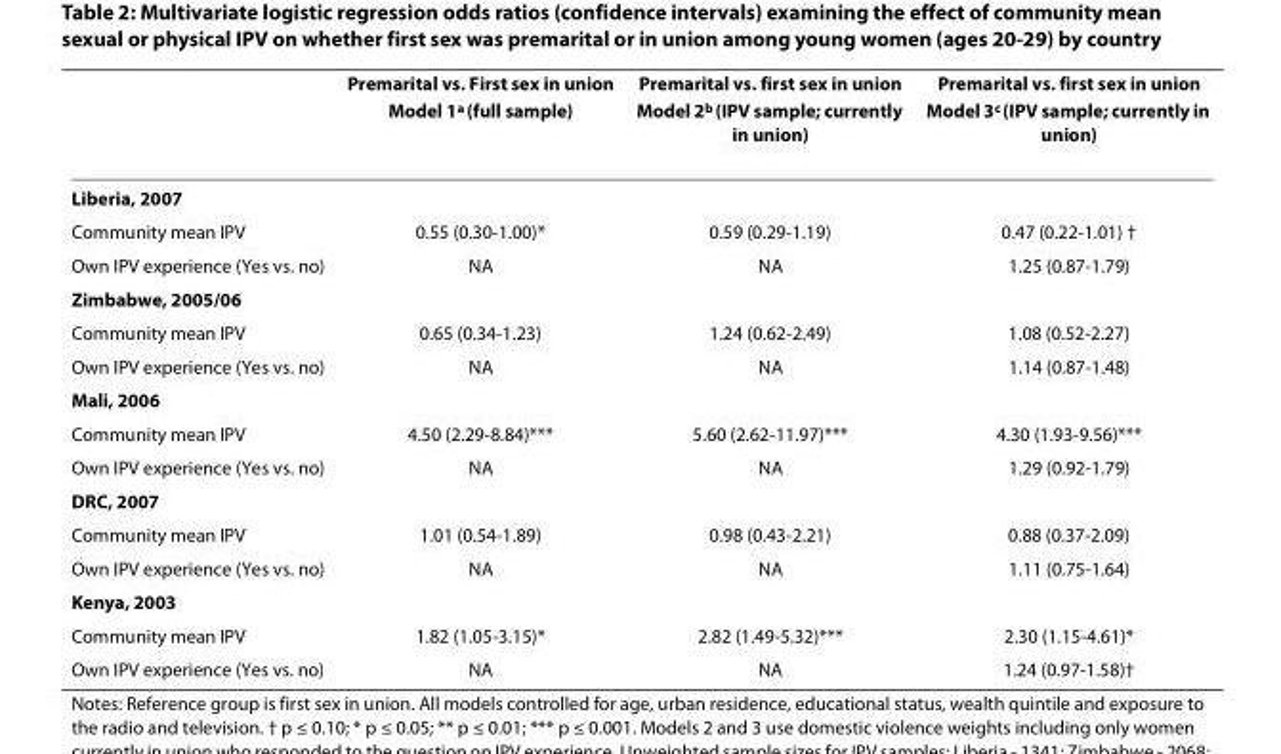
<table><thead><tr><td></td><td>Premarital vs. First sex in union Model 1<sup>a</sup> (full sample)</td><td>Premarital vs. first sex in union Model 2<sup>b</sup> (IPV sample; currently in union)</td><td>Premarital vs. first sex in union Model 3<sup>c</sup> (IPV sample; currently in union)</td></tr></thead><tbody><tr><td colspan="4">Liberia, 2007</td></tr><tr><td>Community mean IPV</td><td>0.55 (0.30-1.00)*</td><td>0.59 (0.29-1.19)</td><td>0.47 (0.22-1.01) †</td></tr><tr><td>Own IPV experience (Yes vs. no)</td><td>NA</td><td>NA</td><td>1.25 (0.87-1.79)</td></tr><tr><td colspan="4">Zimbabwe, 2005/06</td></tr><tr><td>Community mean IPV</td><td>0.65 (0.34-1.23)</td><td>1.24 (0.62-2.49)</td><td>1.08 (0.52-2.27)</td></tr><tr><td>Own IPV experience (Yes vs. no)</td><td>NA</td><td>NA</td><td>1.14 (0.87-1.48)</td></tr><tr><td colspan="4">Mali, 2006</td></tr><tr><td>Community mean IPV</td><td>4.50 (2.29-8.84)***</td><td>5.60 (2.62-11.97)***</td><td>4.30 (1.93-9.56)***</td></tr><tr><td>Own IPV experience (Yes vs. no)</td><td>NA</td><td>NA</td><td>1.29 (0.92-1.79)</td></tr><tr><td colspan="4">DRC, 2007</td></tr><tr><td>Community mean IPV</td><td>1.01 (0.54-1.89)</td><td>0.98 (0.43-2.21)</td><td>0.88 (0.37-2.09)</td></tr><tr><td>Own IPV experience (Yes vs. no)</td><td>NA</td><td>NA</td><td>1.11 (0.75-1.64)</td></tr><tr><td colspan="4">Kenya, 2003</td></tr><tr><td>Community mean IPV</td><td>1.82 (1.05-3.15)*</td><td>2.82 (1.49-5.32)***</td><td>2.30 (1.15-4.61)*</td></tr><tr><td>Own IPV experience (Yes vs. no)</td><td>NA</td><td>NA</td><td>1.24 (0.97-1.58)†</td></tr></tbody></table>